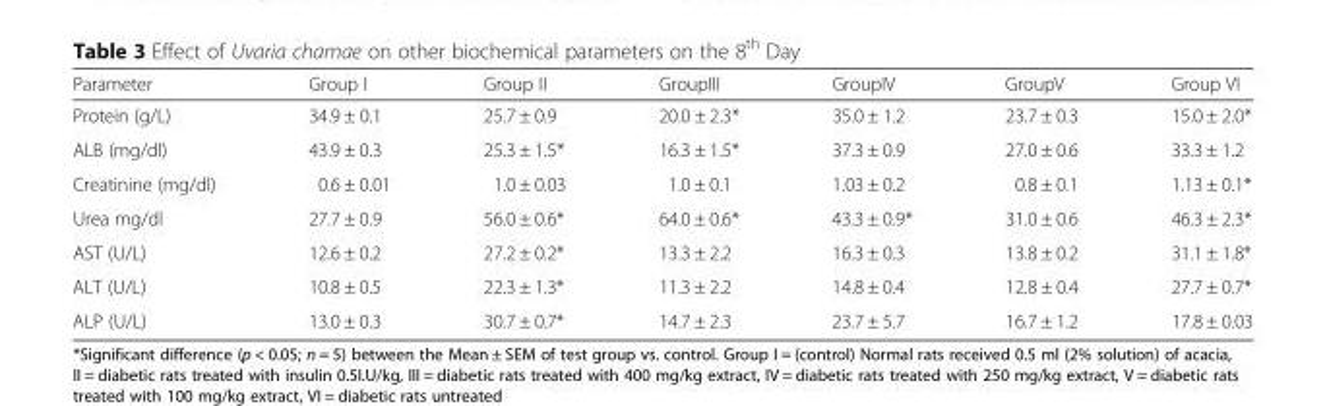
<table><thead><tr><td>Parameter</td><td>Group I</td><td>Group II</td><td>GroupIII</td><td>GroupIV</td><td>GroupV</td><td>Group VI</td></tr></thead><tbody><tr><td>Protein (g/L)</td><td>34.9 ± 0.1</td><td>25.7 ± 0.9</td><td>20.0 ± 2.3*</td><td>35.0 ± 1.2</td><td>23.7 ± 0.3</td><td>15.0 ± 2.0*</td></tr><tr><td>ALB (mg/dl)</td><td>43.9 ± 0.3</td><td>25.3 ± 1.5*</td><td>16.3 ± 1.5*</td><td>37.3 ± 0.9</td><td>27.0 ± 0.6</td><td>33.3 ± 1.2</td></tr><tr><td>Creatinine (mg/dl)</td><td>0.6 ± 0.01</td><td>1.0 ± 0.03</td><td>1.0 ± 0.1</td><td>1.03 ± 0.2</td><td>0.8 ± 0.1</td><td>1.13 ± 0.1*</td></tr><tr><td>Urea mg/dl</td><td>27.7 ± 0.9</td><td>56.0 ± 0.6*</td><td>64.0 ± 0.6*</td><td>43.3 ± 0.9*</td><td>31.0 ± 0.6</td><td>46.3 ± 2.3*</td></tr><tr><td>AST (U/L)</td><td>12.6 ± 0.2</td><td>27.2 ± 0.2*</td><td>13.3 ± 2.2</td><td>16.3 ± 0.3</td><td>13.8 ± 0.2</td><td>31.1 ± 1.8*</td></tr><tr><td>ALT (U/L)</td><td>10.8 ± 0.5</td><td>22.3 ± 1.3*</td><td>11.3 ± 2.2</td><td>14.8 ± 0.4</td><td>12.8 ± 0.4</td><td>27.7 ± 0.7*</td></tr><tr><td>ALP (U/L)</td><td>13.0 ± 0.3</td><td>30.7 ± 0.7*</td><td>14.7 ± 2.3</td><td>23.7 ± 5.7</td><td>16.7 ± 1.2</td><td>17.8 ± 0.03</td></tr></tbody></table>